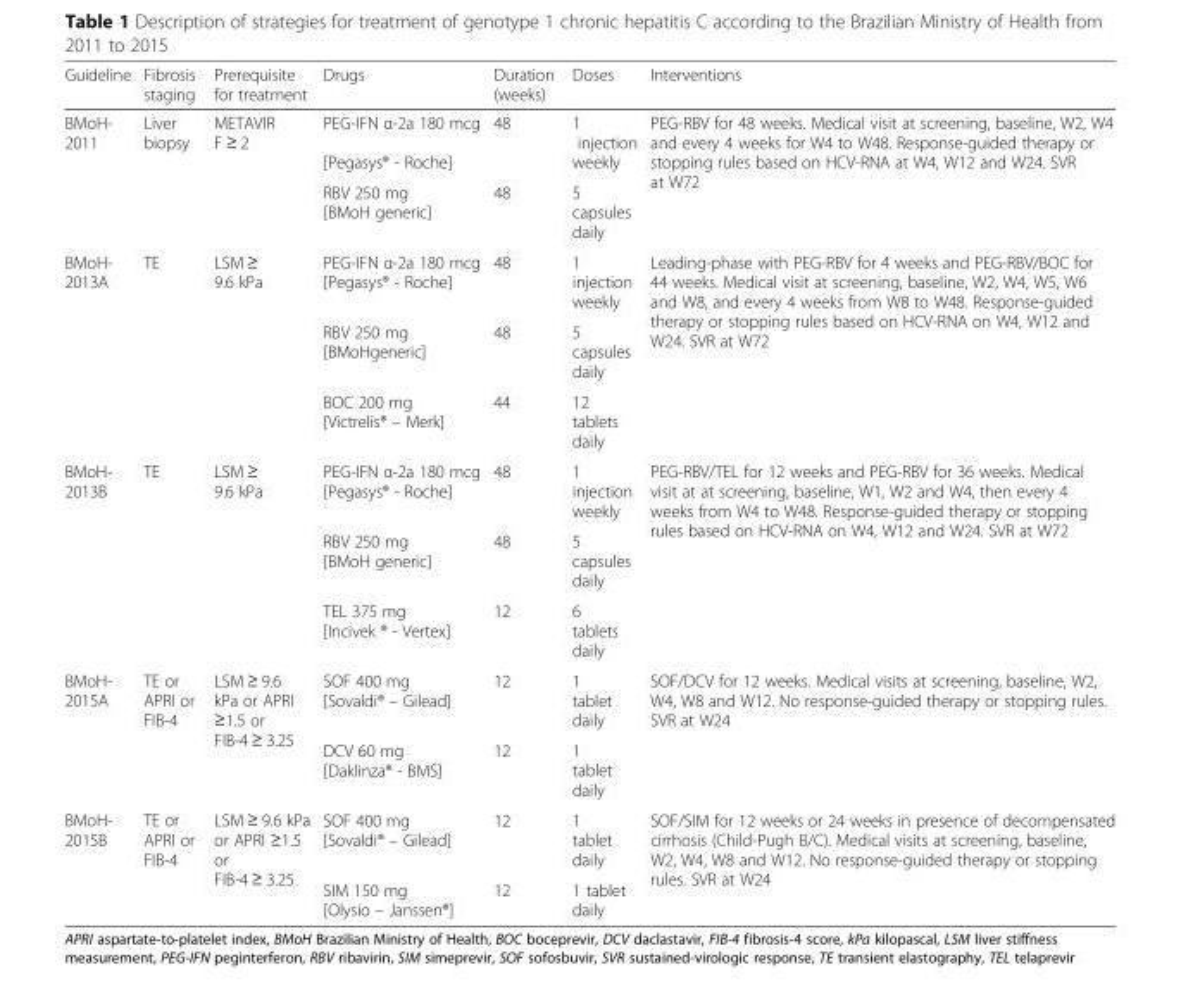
<table><thead><tr><td>Guideline</td><td>Fibrosis staging</td><td>Prerequisite for treatment</td><td>Drugs</td><td>Duration (weeks)</td><td>Doses</td><td>Interventions</td></tr></thead><tbody><tr><td rowspan="2">BMoH- 2011</td><td rowspan="2">Liver biopsy</td><td rowspan="2">METAVIR F ≥ 2</td><td>PEG-IFN α-2a 180 mcg [Pegasys® - Roche]</td><td>48</td><td>1 injection weekly</td><td rowspan="2">PEG-RBV for 48 weeks. Medical visit at screening, baseline, W2, W4 and every 4 weeks for W4 to W48. Response-guided therapy or stopping rules based on HCV-RNA at W4, W12 and W24. SVR at W72</td></tr><tr><td>RBV 250 mg [BMoH generic]</td><td>48</td><td>5 capsules daily</td></tr><tr><td rowspan="3">BMoH- 2013A</td><td rowspan="3">TE</td><td rowspan="3">LSM ≥ 9.6 kPa</td><td>PEG-IFN α-2a 180 mcg [Pegasys® - Roche]</td><td>48</td><td>1 injection weekly</td><td rowspan="3">Leading-phase with PEG-RBV for 4 weeks and PEG-RBV/BOC for 44 weeks. Medical visit at screening, baseline, W2, W4, W5, W6 and W8, and every 4 weeks from W8 to W48. Response-guided therapy or stopping rules based on HCV-RNA on W4, W12 and W24. SVR at W72</td></tr><tr><td>RBV 250 mg [BMoHgeneric]</td><td>48</td><td>5 capsules daily</td></tr><tr><td>BOC 200 mg [Victrelis® – Merk]</td><td>44</td><td>12 tablets daily</td></tr><tr><td rowspan="3">BMoH- 2013B</td><td rowspan="3">TE</td><td rowspan="3">LSM ≥ 9.6 kPa</td><td>PEG-IFN α-2a 180 mcg [Pegasys® - Roche]</td><td>48</td><td>1 injection weekly</td><td rowspan="3">PEG-RBV/TEL for 12 weeks and PEG-RBV for 36 weeks. Medical visit at at screening, baseline, W1, W2 and W4, then every 4 weeks from W4 to W48. Response-guided therapy or stopping rules based on HCV-RNA on W4, W12 and W24. SVR at W72</td></tr><tr><td>RBV 250 mg [BMoH generic]</td><td>48</td><td>5 capsules daily</td></tr><tr><td>TEL 375 mg [Incivek ® - Vertex]</td><td>12</td><td>6 tablets daily</td></tr><tr><td rowspan="2">BMoH- 2015A</td><td rowspan="2">TE or APRI or FIB-4</td><td rowspan="2">LSM ≥ 9.6 kPa or APRI ≥1.5 or FIB-4 ≥ 3.25</td><td>SOF 400 mg [Sovaldi® – Gilead]</td><td>12</td><td>1 tablet daily</td><td rowspan="2">SOF/DCV for 12 weeks. Medical visits at screening, baseline, W2, W4, W8 and W12. No response-guided therapy or stopping rules. SVR at W24</td></tr><tr><td>DCV 60 mg [Daklinza® - BMS]</td><td>12</td><td>1 tablet daily</td></tr><tr><td rowspan="2">BMoH- 2015B</td><td rowspan="2">TE or APRI or FIB-4</td><td rowspan="2">LSM ≥ 9.6 kPa or APRI ≥1.5 or FIB-4 ≥ 3.25</td><td>SOF 400 mg [Sovaldi® – Gilead]</td><td>12</td><td>1 tablet daily</td><td rowspan="2">SOF/SIM for 12 weeks or 24 weeks in presence of decompensated cirrhosis (Child-Pugh B/C). Medical visits at screening, baseline, W2, W4, W8 and W12. No response-guided therapy or stopping rules. SVR at W24</td></tr><tr><td>SIM 150 mg [Olysio – Janssen®]</td><td>12</td><td>1 tablet daily</td></tr></tbody></table>